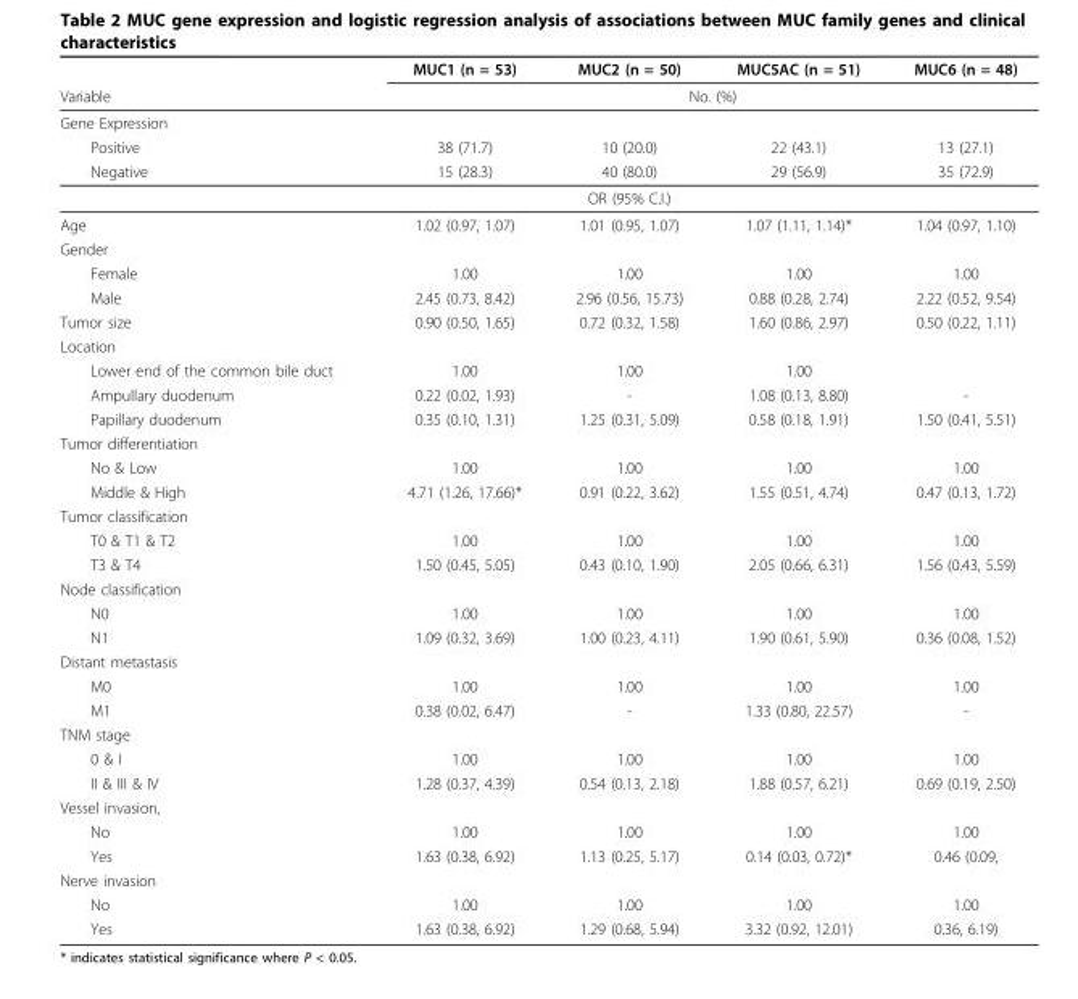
<table><thead><tr><td rowspan="2">Variable</td><td>MUC1 (n = 53)</td><td>MUC2 (n = 50)</td><td>MUC5AC (n = 51)</td><td>MUC6 (n = 48)</td></tr><tr><td colspan="4">No. (%)</td></tr></thead><tbody><tr><td colspan="5">Gene Expression</td></tr><tr><td>Positive</td><td>38 (71.7)</td><td>10 (20.0)</td><td>22 (43.1)</td><td>13 (27.1)</td></tr><tr><td rowspan="2">Negative</td><td>15 (28.3)</td><td>40 (80.0)</td><td>29 (56.9)</td><td>35 (72.9)</td></tr><tr><td></td><td>OR (95% C.I.)</td><td></td><td></td></tr><tr><td>Age</td><td>1.02 (0.97, 1.07)</td><td>1.01 (0.95, 1.07)</td><td>1.07 (1.11, 1.14)*</td><td>1.04 (0.97, 1.10)</td></tr><tr><td colspan="5">Gender</td></tr><tr><td>Female</td><td>1.00</td><td>1.00</td><td>1.00</td><td>1.00</td></tr><tr><td>Male</td><td>2.45 (0.73, 8.42)</td><td>2.96 (0.56, 15.73)</td><td>0.88 (0.28, 2.74)</td><td>2.22 (0.52, 9.54)</td></tr><tr><td>Tumor size</td><td>0.90 (0.50, 1.65)</td><td>0.72 (0.32, 1.58)</td><td>1.60 (0.86, 2.97)</td><td>0.50 (0.22, 1.11)</td></tr><tr><td colspan="5">Location</td></tr><tr><td>Lower end of the common bile duct</td><td>1.00</td><td>1.00</td><td>1.00</td><td></td></tr><tr><td>Ampullary duodenum</td><td>0.22 (0.02, 1.93)</td><td>-</td><td>1.08 (0.13, 8.80)</td><td>-</td></tr><tr><td>Papillary duodenum</td><td>0.35 (0.10, 1.31)</td><td>1.25 (0.31, 5.09)</td><td>0.58 (0.18, 1.91)</td><td>1.50 (0.41, 5.51)</td></tr><tr><td colspan="5">Tumor differentiation</td></tr><tr><td>No &amp; Low</td><td>1.00</td><td>1.00</td><td>1.00</td><td>1.00</td></tr><tr><td>Middle &amp; High</td><td>4.71 (1.26, 17.66)*</td><td>0.91 (0.22, 3.62)</td><td>1.55 (0.51, 4.74)</td><td>0.47 (0.13, 1.72)</td></tr><tr><td colspan="5">Tumor classification</td></tr><tr><td>T0 &amp; T1 &amp; T2</td><td>1.00</td><td>1.00</td><td>1.00</td><td>1.00</td></tr><tr><td>T3 &amp; T4</td><td>1.50 (0.45, 5.05)</td><td>0.43 (0.10, 1.90)</td><td>2.05 (0.66, 6.31)</td><td>1.56 (0.43, 5.59)</td></tr><tr><td colspan="5">Node classification</td></tr><tr><td>N0</td><td>1.00</td><td>1.00</td><td>1.00</td><td>1.00</td></tr><tr><td>N1</td><td>1.09 (0.32, 3.69)</td><td>1.00 (0.23, 4.11)</td><td>1.90 (0.61, 5.90)</td><td>0.36 (0.08, 1.52)</td></tr><tr><td colspan="5">Distant metastasis</td></tr><tr><td>M0</td><td>1.00</td><td>1.00</td><td>1.00</td><td>1.00</td></tr><tr><td>M1</td><td>0.38 (0.02, 6.47)</td><td>-</td><td>1.33 (0.80, 22.57)</td><td>-</td></tr><tr><td colspan="5">TNM stage</td></tr><tr><td>0 &amp; I</td><td>1.00</td><td>1.00</td><td>1.00</td><td>1.00</td></tr><tr><td>II &amp; III &amp; IV</td><td>1.28 (0.37, 4.39)</td><td>0.54 (0.13, 2.18)</td><td>1.88 (0.57, 6.21)</td><td>0.69 (0.19, 2.50)</td></tr><tr><td colspan="5">Vessel invasion,</td></tr><tr><td>No</td><td>1.00</td><td>1.00</td><td>1.00</td><td>1.00</td></tr><tr><td>Yes</td><td>1.63 (0.38, 6.92)</td><td>1.13 (0.25, 5.17)</td><td>0.14 (0.03, 0.72)*</td><td>0.46 (0.09,</td></tr><tr><td colspan="5">Nerve invasion</td></tr><tr><td>No</td><td>1.00</td><td>1.00</td><td>1.00</td><td>1.00</td></tr><tr><td>Yes</td><td>1.63 (0.38, 6.92)</td><td>1.29 (0.68, 5.94)</td><td>3.32 (0.92, 12.01)</td><td>0.36, 6.19)</td></tr></tbody></table>